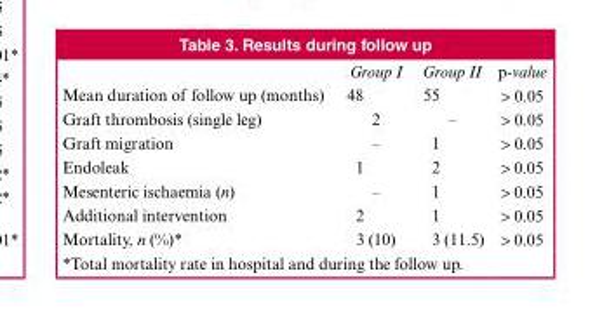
<table><thead><tr><td></td><td>Group I</td><td>Group II</td><td>p-value</td></tr></thead><tbody><tr><td>Mean duration of follow up (months)</td><td>48</td><td>55</td><td>&gt; 0.05</td></tr><tr><td>Graft thrombosis (single leg)</td><td>2</td><td>–</td><td>&gt; 0.05</td></tr><tr><td>Graft migration</td><td>–</td><td>1</td><td>&gt; 0.05</td></tr><tr><td>Endoleak</td><td>1</td><td>2</td><td>&gt; 0.05</td></tr><tr><td>Mesenteric ischaemia (n)</td><td>–</td><td>1</td><td>&gt; 0.05</td></tr><tr><td>Additional intervention</td><td>2</td><td>1</td><td>&gt; 0.05</td></tr><tr><td>Mortality, n (%)*</td><td>3 (10)</td><td>3 (11.5)</td><td>&gt; 0.05</td></tr></tbody></table>